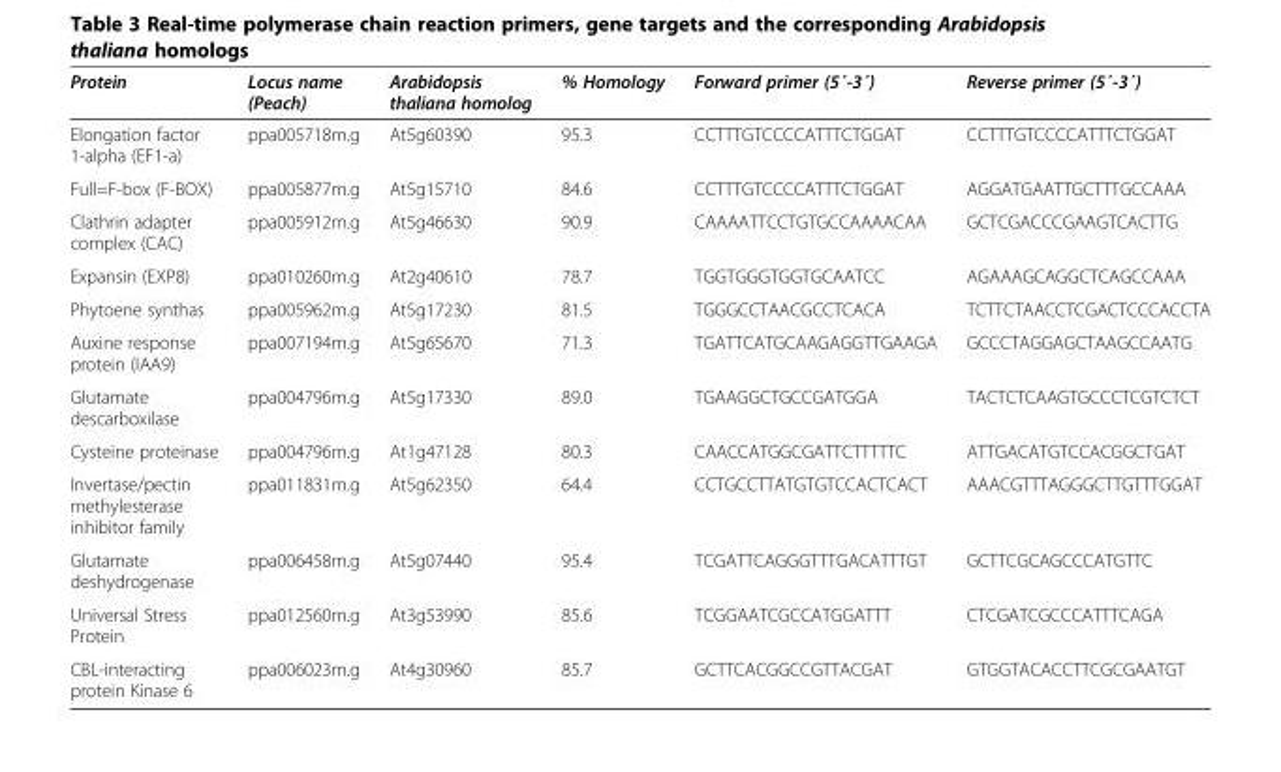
<table><thead><tr><td>Protein</td><td>Locus name (Peach)</td><td>Arabidopsis thaliana homolog</td><td>% Homology</td><td>Forward primer (5´-3´)</td><td>Reverse primer (5´-3´)</td></tr></thead><tbody><tr><td>Elongation factor 1-alpha (EF1-a)</td><td>ppa005718m.g</td><td>At5g60390</td><td>95.3</td><td>CCTTTGTCCCCATTTCTGGAT</td><td>CCTTTGTCCCCATTTCTGGAT</td></tr><tr><td>Full=F-box (F-BOX)</td><td>ppa005877m.g</td><td>At5g15710</td><td>84.6</td><td>CCTTTGTCCCCATTTCTGGAT</td><td>AGGATGAATTGCTTTGCCAAA</td></tr><tr><td>Clathrin adapter complex (CAC)</td><td>ppa005912m.g</td><td>At5g46630</td><td>90.9</td><td>CAAAATTCCTGTGCCAAAACAA</td><td>GCTCGACCCGAAGTCACTTG</td></tr><tr><td>Expansin (EXP8)</td><td>ppa010260m.g</td><td>At2g40610</td><td>78.7</td><td>TGGTGGGTGGTGCAATCC</td><td>AGAAAGCAGGCTCAGCCAAA</td></tr><tr><td>Phytoene synthas</td><td>ppa005962m.g</td><td>At5g17230</td><td>81.5</td><td>TGGGCCTAACGCCTCACA</td><td>TCTTCTAACCTCGACTCCCACCTA</td></tr><tr><td>Auxine response protein (IAA9)</td><td>ppa007194m.g</td><td>At5g65670</td><td>71.3</td><td>TGATTCATGCAAGAGGTTGAAGA</td><td>GCCCTAGGAGCTAAGCCAATG</td></tr><tr><td>Glutamate descarboxilase</td><td>ppa004796m.g</td><td>At5g17330</td><td>89.0</td><td>TGAAGGCTGCCGATGGA</td><td>TACTCTCAAGTGCCCTCGTCTCT</td></tr><tr><td>Cysteine proteinase</td><td>ppa004796m.g</td><td>At1g47128</td><td>80.3</td><td>CAACCATGGCGATTCTTTTTC</td><td>ATTGACATGTCCACGGCTGAT</td></tr><tr><td>Invertase/pectin methylesterase inhibitor family</td><td>ppa011831m.g</td><td>At5g62350</td><td>64.4</td><td>CCTGCCTTATGTGTCCACTCACT</td><td>AAACGTTTAGGGCTTGTTTGGAT</td></tr><tr><td>Glutamate deshydrogenase</td><td>ppa006458m.g</td><td>At5g07440</td><td>95.4</td><td>TCGATTCAGGGTTTGACATTTGT</td><td>GCTTCGCAGCCCATGTTC</td></tr><tr><td>Universal Stress Protein</td><td>ppa012560m.g</td><td>At3g53990</td><td>85.6</td><td>TCGGAATCGCCATGGATTT</td><td>CTCGATCGCCCATTTCAGA</td></tr><tr><td>CBL-interacting protein Kinase 6</td><td>ppa006023m.g</td><td>At4g30960</td><td>85.7</td><td>GCTTCACGGCCGTTACGAT</td><td>GTGGTACACCTTCGCGAATGT</td></tr></tbody></table>